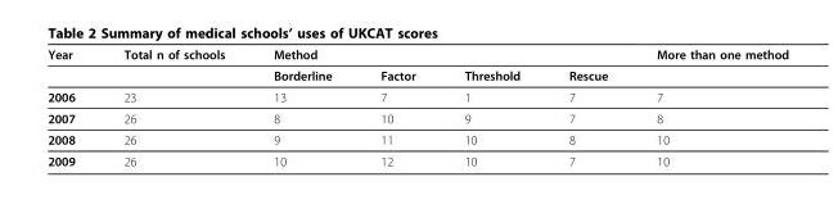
<table><thead><tr><td>Year</td><td>Total n of schools</td><td>Method</td><td></td><td></td><td></td><td>More than one method</td></tr></thead><tbody><tr><td></td><td></td><td>Borderline</td><td>Factor</td><td>Threshold</td><td>Rescue</td><td></td></tr><tr><td>2006</td><td>23</td><td>13</td><td>7</td><td>1</td><td>7</td><td>7</td></tr><tr><td>2007</td><td>26</td><td>8</td><td>10</td><td>9</td><td>7</td><td>8</td></tr><tr><td>2008</td><td>26</td><td>9</td><td>11</td><td>10</td><td>8</td><td>10</td></tr><tr><td>2009</td><td>26</td><td>10</td><td>12</td><td>10</td><td>7</td><td>10</td></tr></tbody></table>